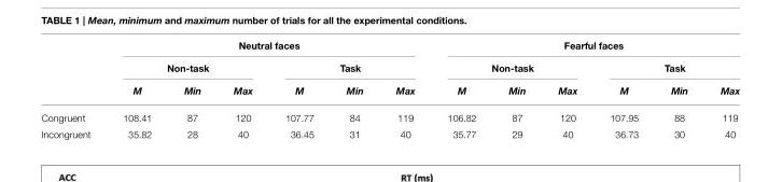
<table><thead><tr><td rowspan="3"></td><td colspan="6">Neutral faces</td><td colspan="6">Fearful faces</td></tr><tr><td colspan="3">Non-task</td><td colspan="3">Task</td><td colspan="3">Non-task</td><td colspan="3">Task</td></tr><tr><td>M</td><td>Min</td><td>Max</td><td>M</td><td>Min</td><td>Max</td><td>M</td><td>Min</td><td>Max</td><td>M</td><td>Min</td><td>Max</td></tr></thead><tbody><tr><td>Congruent</td><td>108.41</td><td>87</td><td>120</td><td>107.77</td><td>84</td><td>119</td><td>106.82</td><td>87</td><td>120</td><td>107.95</td><td>88</td><td>119</td></tr><tr><td>Incongruent</td><td>35.82</td><td>28</td><td>40</td><td>36.45</td><td>31</td><td>40</td><td>35.77</td><td>29</td><td>40</td><td>36.73</td><td>30</td><td>40</td></tr></tbody></table>